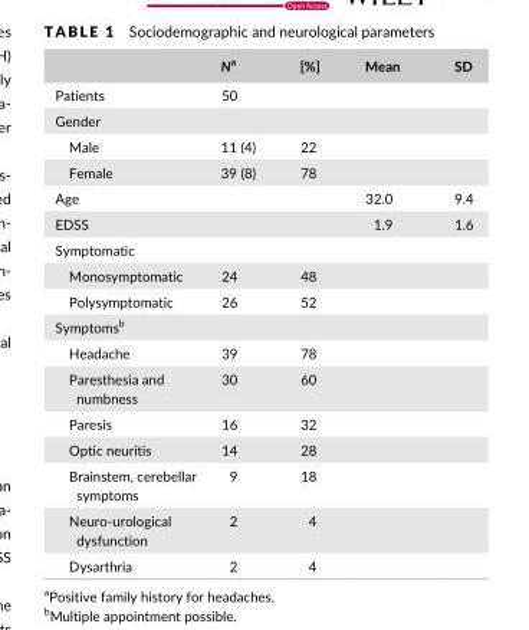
<table><thead><tr><td></td><td>Na</td><td>[%]</td><td>Mean</td><td>SD</td></tr></thead><tbody><tr><td>Patients</td><td>50</td><td></td><td></td><td></td></tr><tr><td colspan="5">Gender</td></tr><tr><td>Male</td><td>11 (4)</td><td>22</td><td></td><td></td></tr><tr><td>Female</td><td>39 (8)</td><td>78</td><td></td><td></td></tr><tr><td>Age</td><td></td><td></td><td>32.0</td><td>9.4</td></tr><tr><td>EDSS</td><td></td><td></td><td>1.9</td><td>1.6</td></tr><tr><td colspan="5">Symptomatic</td></tr><tr><td>Monosymptomatic</td><td>24</td><td>48</td><td></td><td></td></tr><tr><td>Polysymptomatic</td><td>26</td><td>52</td><td></td><td></td></tr><tr><td colspan="5">Symptoms<sup>b</sup></td></tr><tr><td>Headache</td><td>39</td><td>78</td><td></td><td></td></tr><tr><td>Paresthesia and numbness</td><td>30</td><td>60</td><td></td><td></td></tr><tr><td>Paresis</td><td>16</td><td>32</td><td></td><td></td></tr><tr><td>Optic neuritis</td><td>14</td><td>28</td><td></td><td></td></tr><tr><td>Brainstem, cerebellar symptoms</td><td>9</td><td>18</td><td></td><td></td></tr><tr><td>Neuro- urological dysfunction</td><td>2</td><td>4</td><td></td><td></td></tr><tr><td>Dysarthria</td><td>2</td><td>4</td><td></td><td></td></tr></tbody></table>